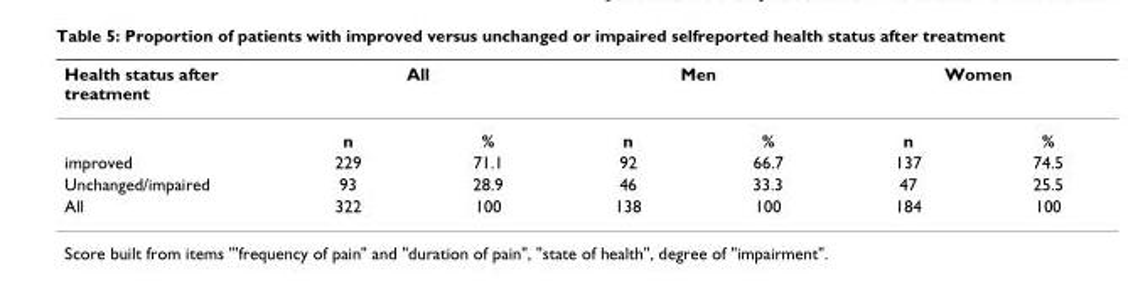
<table><thead><tr><td rowspan="2">Health status after treatment</td><td colspan="2">All</td><td colspan="2">Men</td><td colspan="2">Women</td></tr><tr><td>n</td><td>%</td><td>n</td><td>%</td><td>n</td><td>%</td></tr></thead><tbody><tr><td>improved</td><td>229</td><td>71.1</td><td>92</td><td>66.7</td><td>137</td><td>74.5</td></tr><tr><td>Unchanged/impaired</td><td>93</td><td>28.9</td><td>46</td><td>33.3</td><td>47</td><td>25.5</td></tr><tr><td>All</td><td>322</td><td>100</td><td>138</td><td>100</td><td>184</td><td>100</td></tr></tbody></table>